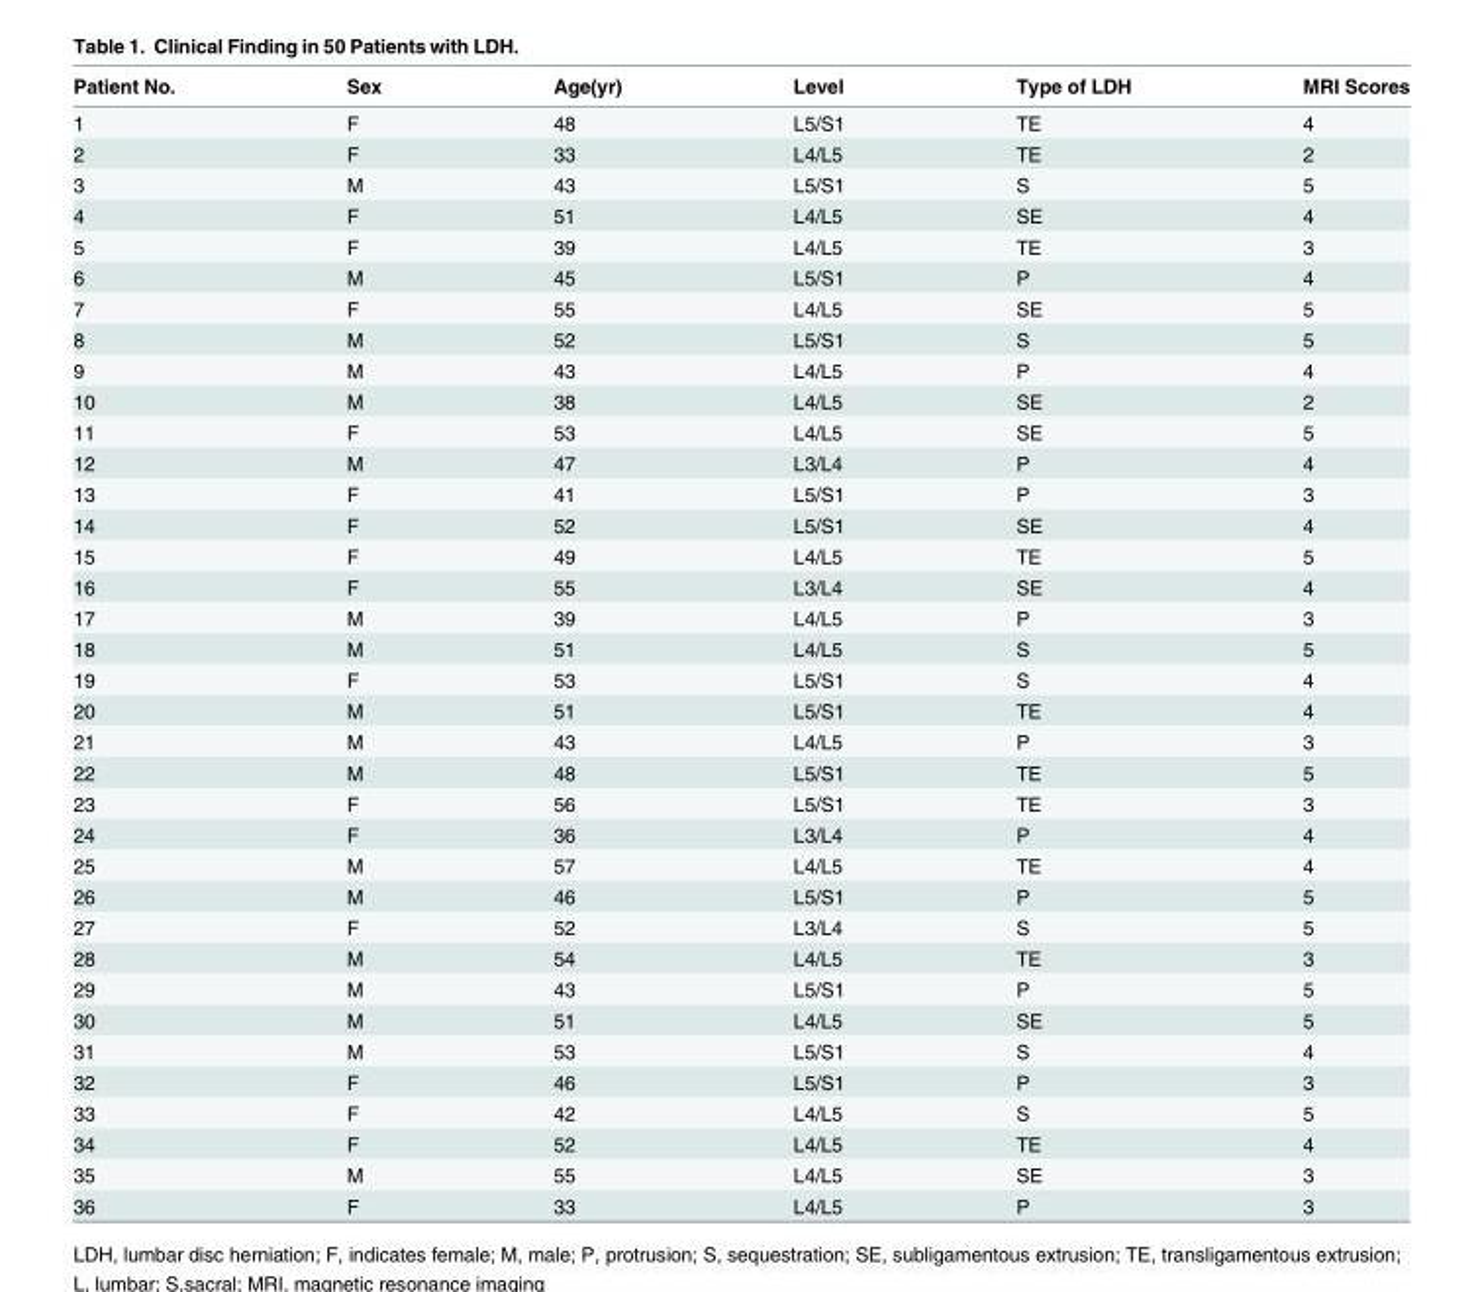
<table><thead><tr><td>Patient No.</td><td>Sex</td><td>Age(yr)</td><td>Level</td><td>Type of LDH</td><td>MRI Scores</td></tr></thead><tbody><tr><td>1</td><td>F</td><td>48</td><td>L5/S1</td><td>TE</td><td>4</td></tr><tr><td>2</td><td>F</td><td>33</td><td>L4/L5</td><td>TE</td><td>2</td></tr><tr><td>3</td><td>M</td><td>43</td><td>L5/S1</td><td>S</td><td>5</td></tr><tr><td>4</td><td>F</td><td>51</td><td>L4/L5</td><td>SE</td><td>4</td></tr><tr><td>5</td><td>F</td><td>39</td><td>L4/L5</td><td>TE</td><td>3</td></tr><tr><td>6</td><td>M</td><td>45</td><td>L5/S1</td><td>P</td><td>4</td></tr><tr><td>7</td><td>F</td><td>55</td><td>L4/L5</td><td>SE</td><td>5</td></tr><tr><td>8</td><td>M</td><td>52</td><td>L5/S1</td><td>S</td><td>5</td></tr><tr><td>9</td><td>M</td><td>43</td><td>L4/L5</td><td>P</td><td>4</td></tr><tr><td>10</td><td>M</td><td>38</td><td>L4/L5</td><td>SE</td><td>2</td></tr><tr><td>11</td><td>F</td><td>53</td><td>L4/L5</td><td>SE</td><td>5</td></tr><tr><td>12</td><td>M</td><td>47</td><td>L3/L4</td><td>P</td><td>4</td></tr><tr><td>13</td><td>F</td><td>41</td><td>L5/S1</td><td>P</td><td>3</td></tr><tr><td>14</td><td>F</td><td>52</td><td>L5/S1</td><td>SE</td><td>4</td></tr><tr><td>15</td><td>F</td><td>49</td><td>L4/L5</td><td>TE</td><td>5</td></tr><tr><td>16</td><td>F</td><td>55</td><td>L3/L4</td><td>SE</td><td>4</td></tr><tr><td>17</td><td>M</td><td>39</td><td>L4/L5</td><td>P</td><td>3</td></tr><tr><td>18</td><td>M</td><td>51</td><td>L4/L5</td><td>S</td><td>5</td></tr><tr><td>19</td><td>F</td><td>53</td><td>L5/S1</td><td>S</td><td>4</td></tr><tr><td>20</td><td>M</td><td>51</td><td>L5/S1</td><td>TE</td><td>4</td></tr><tr><td>21</td><td>M</td><td>43</td><td>L4/L5</td><td>P</td><td>3</td></tr><tr><td>22</td><td>M</td><td>48</td><td>L5/S1</td><td>TE</td><td>5</td></tr><tr><td>23</td><td>F</td><td>56</td><td>L5/S1</td><td>TE</td><td>3</td></tr><tr><td>24</td><td>F</td><td>36</td><td>L3/L4</td><td>P</td><td>4</td></tr><tr><td>25</td><td>M</td><td>57</td><td>L4/L5</td><td>TE</td><td>4</td></tr><tr><td>26</td><td>M</td><td>46</td><td>L5/S1</td><td>P</td><td>5</td></tr><tr><td>27</td><td>F</td><td>52</td><td>L3/L4</td><td>S</td><td>5</td></tr><tr><td>28</td><td>M</td><td>54</td><td>L4/L5</td><td>TE</td><td>3</td></tr><tr><td>29</td><td>M</td><td>43</td><td>L5/S1</td><td>P</td><td>5</td></tr><tr><td>30</td><td>M</td><td>51</td><td>L4/L5</td><td>SE</td><td>5</td></tr><tr><td>31</td><td>M</td><td>53</td><td>L5/S1</td><td>S</td><td>4</td></tr><tr><td>32</td><td>F</td><td>46</td><td>L5/S1</td><td>P</td><td>3</td></tr><tr><td>33</td><td>F</td><td>42</td><td>L4/L5</td><td>S</td><td>5</td></tr><tr><td>34</td><td>F</td><td>52</td><td>L4/L5</td><td>TE</td><td>4</td></tr><tr><td>35</td><td>M</td><td>55</td><td>L4/L5</td><td>SE</td><td>3</td></tr><tr><td>36</td><td>F</td><td>33</td><td>L4/L5</td><td>P</td><td>3</td></tr></tbody></table>